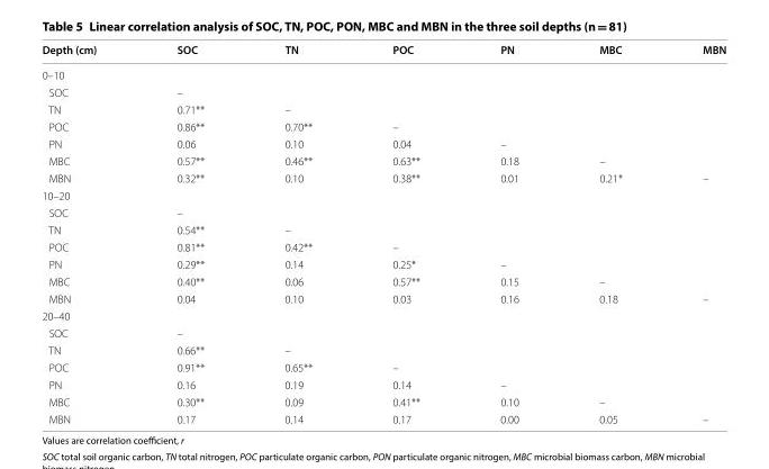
<table><thead><tr><td>Depth (cm)</td><td>SOC</td><td>TN</td><td>POC</td><td>PN</td><td>MBC</td><td>MBN</td></tr></thead><tbody><tr><td colspan="7">0–10</td></tr><tr><td>SOC</td><td>–</td><td></td><td></td><td></td><td></td><td></td></tr><tr><td>TN</td><td>0.71**</td><td>–</td><td></td><td></td><td></td><td></td></tr><tr><td>POC</td><td>0.86**</td><td>0.70**</td><td>–</td><td></td><td></td><td></td></tr><tr><td>PN</td><td>0.06</td><td>0.10</td><td>0.04</td><td>–</td><td></td><td></td></tr><tr><td>MBC</td><td>0.57**</td><td>0.46**</td><td>0.63**</td><td>0.18</td><td>–</td><td></td></tr><tr><td>MBN</td><td>0.32**</td><td>0.10</td><td>0.38**</td><td>0.01</td><td>0.21*</td><td>–</td></tr><tr><td colspan="7">10–20</td></tr><tr><td>SOC</td><td>–</td><td></td><td></td><td></td><td></td><td></td></tr><tr><td>TN</td><td>0.54**</td><td>–</td><td></td><td></td><td></td><td></td></tr><tr><td>POC</td><td>0.81**</td><td>0.42**</td><td>–</td><td></td><td></td><td></td></tr><tr><td>PN</td><td>0.29**</td><td>0.14</td><td>0.25*</td><td>–</td><td></td><td></td></tr><tr><td>MBC</td><td>0.40**</td><td>0.06</td><td>0.57**</td><td>0.15</td><td>–</td><td></td></tr><tr><td>MBN</td><td>0.04</td><td>0.10</td><td>0.03</td><td>0.16</td><td>0.18</td><td>–</td></tr><tr><td colspan="7">20–40</td></tr><tr><td>SOC</td><td>–</td><td></td><td></td><td></td><td></td><td></td></tr><tr><td>TN</td><td>0.66**</td><td>–</td><td></td><td></td><td></td><td></td></tr><tr><td>POC</td><td>0.91**</td><td>0.65**</td><td>–</td><td></td><td></td><td></td></tr><tr><td>PN</td><td>0.16</td><td>0.19</td><td>0.14</td><td>–</td><td></td><td></td></tr><tr><td>MBC</td><td>0.30**</td><td>0.09</td><td>0.41**</td><td>0.10</td><td>–</td><td></td></tr><tr><td>MBN</td><td>0.17</td><td>0.14</td><td>0.17</td><td>0.00</td><td>0.05</td><td>–</td></tr></tbody></table>